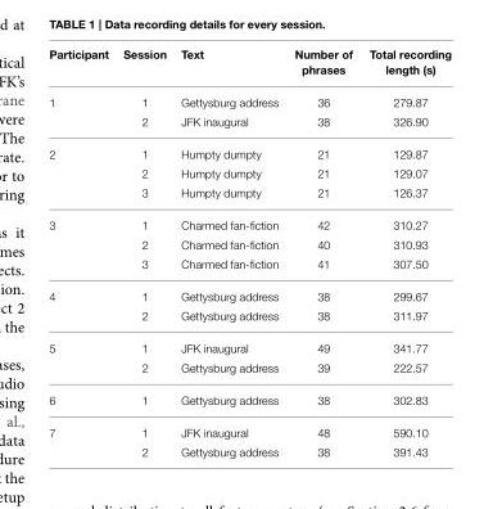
<table><thead><tr><td>Participant</td><td>Session</td><td>Text</td><td>Number of phrases</td><td>Total recording length (s)</td></tr></thead><tbody><tr><td rowspan="2">1</td><td>1</td><td>Gettysburg address</td><td>36</td><td>279.87</td></tr><tr><td>2</td><td>JFK inaugural</td><td>38</td><td>326.90</td></tr><tr><td rowspan="3">2</td><td>1</td><td>Humpty dumpty</td><td>21</td><td>129.87</td></tr><tr><td>2</td><td>Humpty dumpty</td><td>21</td><td>129.07</td></tr><tr><td>3</td><td>Humpty dumpty</td><td>21</td><td>126.37</td></tr><tr><td rowspan="3">3</td><td>1</td><td>Charmed fan-fiction</td><td>42</td><td>310.27</td></tr><tr><td>2</td><td>Charmed fan-fiction</td><td>40</td><td>310.93</td></tr><tr><td>3</td><td>Charmed fan-fiction</td><td>41</td><td>307.50</td></tr><tr><td rowspan="2">4</td><td>1</td><td>Gettysburg address</td><td>38</td><td>299.67</td></tr><tr><td>2</td><td>Gettysburg address</td><td>38</td><td>311.97</td></tr><tr><td rowspan="2">5</td><td>1</td><td>JFK inaugural</td><td>49</td><td>341.77</td></tr><tr><td>2</td><td>Gettysburg address</td><td>39</td><td>222.57</td></tr><tr><td>6</td><td>1</td><td>Gettysburg address</td><td>38</td><td>302.83</td></tr><tr><td rowspan="2">7</td><td>1</td><td>JFK inaugural</td><td>48</td><td>590.10</td></tr><tr><td>2</td><td>Gettysburg address</td><td>38</td><td>391.43</td></tr></tbody></table>